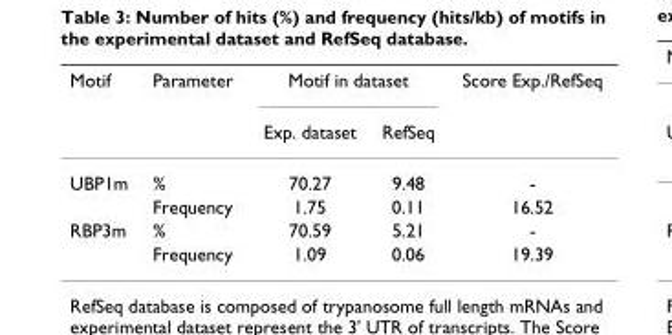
<table><thead><tr><td rowspan="2">Motif</td><td rowspan="2">Parameter</td><td colspan="2">Motif in dataset</td><td rowspan="2">Score Exp./RefSeq</td></tr><tr><td>Exp. dataset</td><td>RefSeq</td></tr></thead><tbody><tr><td rowspan="2">UBP1m</td><td>%</td><td>70.27</td><td>9.48</td><td>-</td></tr><tr><td>Frequency</td><td>1.75</td><td>0.11</td><td>16.52</td></tr><tr><td rowspan="2">RBP3m</td><td>%</td><td>70.59</td><td>5.21</td><td>-</td></tr><tr><td>Frequency</td><td>1.09</td><td>0.06</td><td>19.39</td></tr></tbody></table>